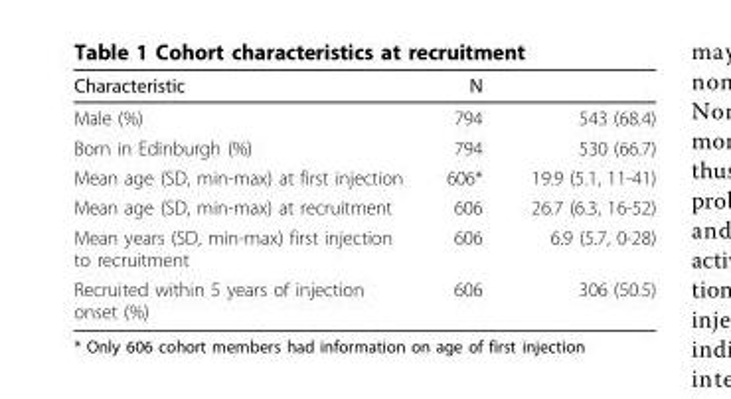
<table><thead><tr><td>Characteristic</td><td>N</td><td></td></tr></thead><tbody><tr><td>Male (%)</td><td>794</td><td>543 (68.4)</td></tr><tr><td>Born in Edinburgh (%)</td><td>794</td><td>530 (66.7)</td></tr><tr><td>Mean age (SD, min-max) at first injection</td><td>606*</td><td>19.9 (5.1, 11-41)</td></tr><tr><td>Mean age (SD, min-max) at recruitment</td><td>606</td><td>26.7 (6.3, 16-52)</td></tr><tr><td>Mean years (SD, min-max) first injection to recruitment</td><td>606</td><td>6.9 (5.7, 0-28)</td></tr><tr><td>Recruited within 5 years of injection onset (%)</td><td>606</td><td>306 (50.5)</td></tr></tbody></table>